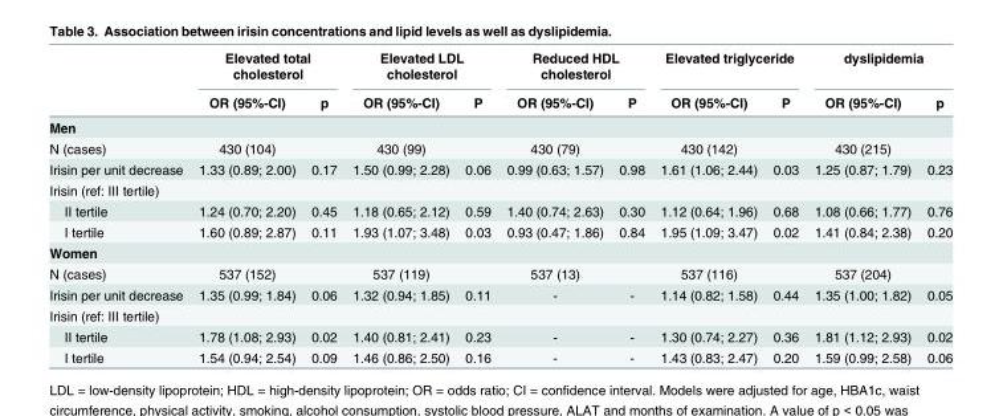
<table><thead><tr><td rowspan="2"></td><td colspan="2">Elevated total cholesterol</td><td colspan="2">Elevated LDL cholesterol</td><td colspan="2">Reduced HDL cholesterol</td><td colspan="2">Elevated triglyceride</td><td colspan="2">dyslipidemia</td></tr><tr><td>OR (95%-CI)</td><td>p</td><td>OR (95%-CI)</td><td>P</td><td>OR (95%-CI)</td><td>P</td><td>OR (95%-CI)</td><td>P</td><td>OR (95%-CI)</td><td>p</td></tr></thead><tbody><tr><td colspan="11">Men</td></tr><tr><td>N (cases)</td><td>430 (104)</td><td></td><td>430 (99)</td><td></td><td>430 (79)</td><td></td><td>430 (142)</td><td></td><td>430 (215)</td><td></td></tr><tr><td>Irisin per unit decrease</td><td>1.33 (0.89; 2.00)</td><td>0.17</td><td>1.50 (0.99; 2.28)</td><td>0.06</td><td>0.99 (0.63; 1.57)</td><td>0.98</td><td>1.61 (1.06; 2.44)</td><td>0.03</td><td>1.25 (0.87; 1.79)</td><td>0.23</td></tr><tr><td colspan="11">Irisin (ref: III tertile)</td></tr><tr><td>II tertile</td><td>1.24 (0.70; 2.20)</td><td>0.45</td><td>1.18 (0.65; 2.12)</td><td>0.59</td><td>1.40 (0.74; 2.63)</td><td>0.30</td><td>1.12 (0.64; 1.96)</td><td>0.68</td><td>1.08 (0.66; 1.77)</td><td>0.76</td></tr><tr><td>I tertile</td><td>1.60 (0.89; 2.87)</td><td>0.11</td><td>1.93 (1.07; 3.48)</td><td>0.03</td><td>0.93 (0.47; 1.86)</td><td>0.84</td><td>1.95 (1.09; 3.47)</td><td>0.02</td><td>1.41 (0.84; 2.38)</td><td>0.20</td></tr><tr><td colspan="11">Women</td></tr><tr><td>N (cases)</td><td>537 (152)</td><td></td><td>537 (119)</td><td></td><td>537 (13)</td><td></td><td>537 (116)</td><td></td><td>537 (204)</td><td></td></tr><tr><td>Irisin per unit decrease</td><td>1.35 (0.99; 1.84)</td><td>0.06</td><td>1.32 (0.94; 1.85)</td><td>0.11</td><td>-</td><td>-</td><td>1.14 (0.82; 1.58)</td><td>0.44</td><td>1.35 (1.00; 1.82)</td><td>0.05</td></tr><tr><td colspan="11">Irisin (ref: III tertile)</td></tr><tr><td>II tertile</td><td>1.78 (1.08; 2.93)</td><td>0.02</td><td>1.40 (0.81; 2.41)</td><td>0.23</td><td>-</td><td>-</td><td>1.30 (0.74; 2.27)</td><td>0.36</td><td>1.81 (1.12; 2.93)</td><td>0.02</td></tr><tr><td>I tertile</td><td>1.54 (0.94; 2.54)</td><td>0.09</td><td>1.46 (0.86; 2.50)</td><td>0.16</td><td>-</td><td>-</td><td>1.43 (0.83; 2.47)</td><td>0.20</td><td>1.59 (0.99; 2.58)</td><td>0.06</td></tr></tbody></table>